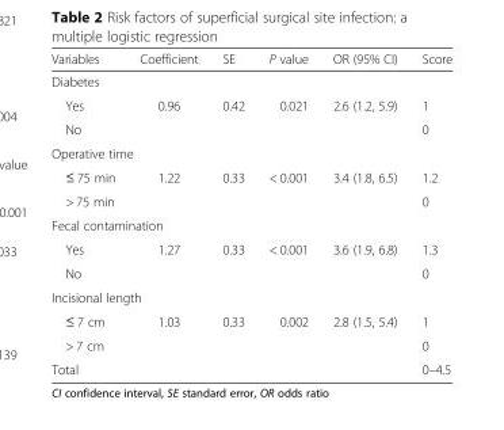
<table><thead><tr><td>Variables</td><td>Coefficient</td><td>SE</td><td>P value</td><td>OR (95% CI)</td><td>Score</td></tr></thead><tbody><tr><td colspan="6">Diabetes</td></tr><tr><td>Yes</td><td rowspan="2">0.96</td><td rowspan="2">0.42</td><td rowspan="2">0.021</td><td rowspan="2">2.6 (1.2, 5.9)</td><td>1</td></tr><tr><td>No</td><td>0</td></tr><tr><td colspan="6">Operative time</td></tr><tr><td>≤ 75 min</td><td rowspan="2">1.22</td><td rowspan="2">0.33</td><td rowspan="2">&lt; 0.001</td><td rowspan="2">3.4 (1.8, 6.5)</td><td>1.2</td></tr><tr><td>&gt; 75 min</td><td>0</td></tr><tr><td colspan="6">Fecal contamination</td></tr><tr><td>Yes</td><td rowspan="2">1.27</td><td rowspan="2">0.33</td><td rowspan="2">&lt; 0.001</td><td rowspan="2">3.6 (1.9, 6.8)</td><td>1.3</td></tr><tr><td>No</td><td>0</td></tr><tr><td colspan="6">Incisional length</td></tr><tr><td>≤ 7 cm</td><td rowspan="2">1.03</td><td rowspan="2">0.33</td><td rowspan="2">0.002</td><td rowspan="2">2.8 (1.5, 5.4)</td><td>1</td></tr><tr><td>&gt; 7 cm</td><td>0</td></tr><tr><td>Total</td><td></td><td></td><td></td><td></td><td>0–4.5</td></tr></tbody></table>